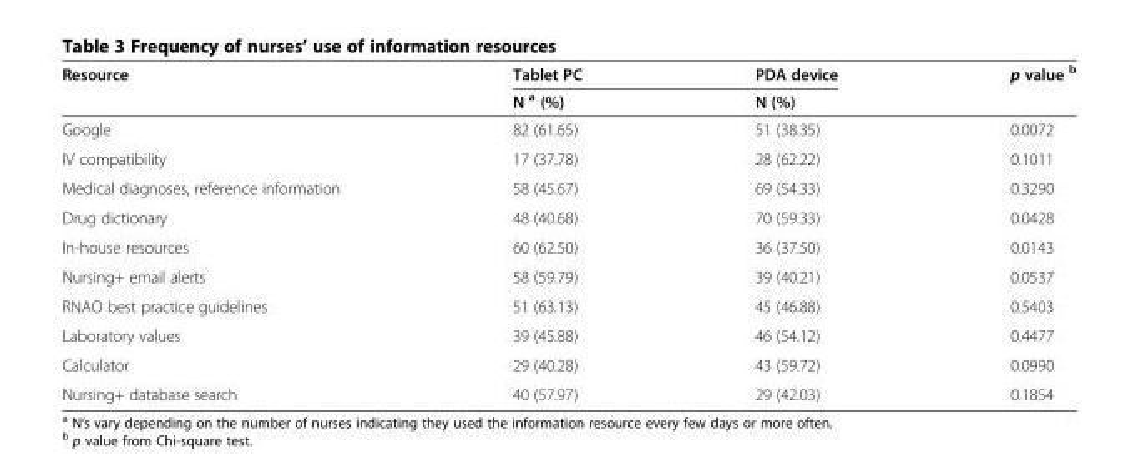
<table><thead><tr><td rowspan="2">Resource</td><td rowspan="2">Tablet PC N <sup>a</sup> (%)</td><td rowspan="2">PDA device N (%)</td><td rowspan="2">p value <sup>b</sup></td></tr><tr></tr></thead><tbody><tr><td>Google</td><td>82 (61.65)</td><td>51 (38.35)</td><td>0.0072</td></tr><tr><td>IV compatibility</td><td>17 (37.78)</td><td>28 (62.22)</td><td>0.1011</td></tr><tr><td>Medical diagnoses, reference information</td><td>58 (45.67)</td><td>69 (54.33)</td><td>0.3290</td></tr><tr><td>Drug dictionary</td><td>48 (40.68)</td><td>70 (59.33)</td><td>0.0428</td></tr><tr><td>In-house resources</td><td>60 (62.50)</td><td>36 (37.50)</td><td>0.0143</td></tr><tr><td>Nursing+ email alerts</td><td>58 (59.79)</td><td>39 (40.21)</td><td>0.0537</td></tr><tr><td>RNAO best practice guidelines</td><td>51 (63.13)</td><td>45 (46.88)</td><td>0.5403</td></tr><tr><td>Laboratory values</td><td>39 (45.88)</td><td>46 (54.12)</td><td>0.4477</td></tr><tr><td>Calculator</td><td>29 (40.28)</td><td>43 (59.72)</td><td>0.0990</td></tr><tr><td>Nursing+ database search</td><td>40 (57.97)</td><td>29 (42.03)</td><td>0.1854</td></tr></tbody></table>